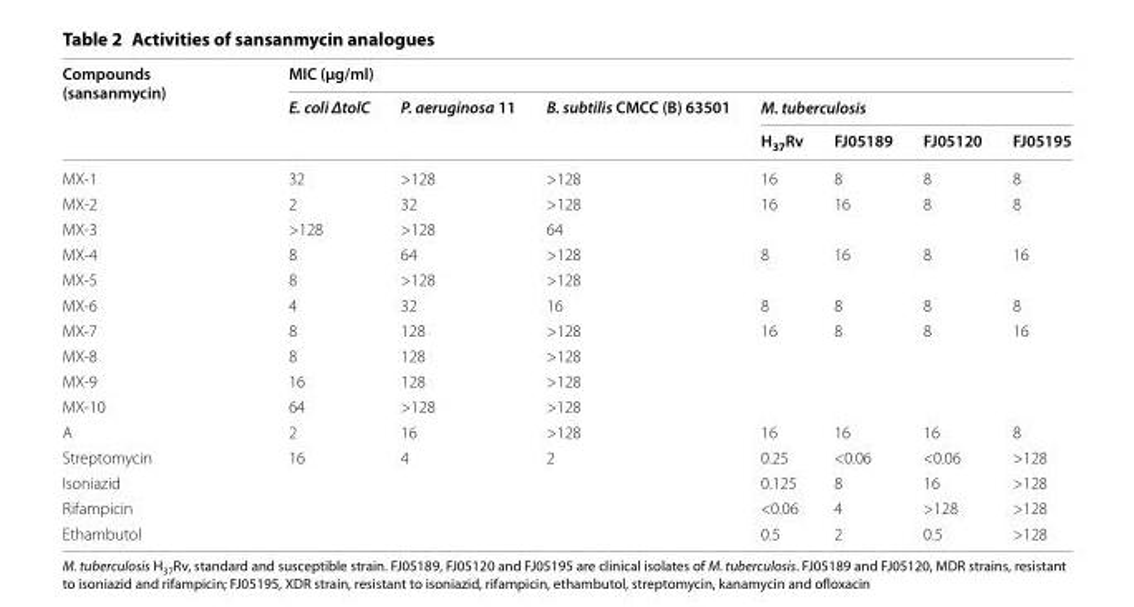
<table><thead><tr><td rowspan="3">Compounds (sansanmycin)</td><td colspan="7">MIC (μg/ml)</td></tr><tr><td rowspan="2">E. coli ΔtolC</td><td rowspan="2">P. aeruginosa 11</td><td rowspan="2">B. subtilis CMCC (B) 63501</td><td colspan="4">M. tuberculosis</td></tr><tr><td>H<sub>37</sub>Rv</td><td>FJ05189</td><td>FJ05120</td><td>FJ05195</td></tr></thead><tbody><tr><td>MX-1</td><td>32</td><td>&gt;128</td><td>&gt;128</td><td>16</td><td>8</td><td>8</td><td>8</td></tr><tr><td>MX-2</td><td>2</td><td>32</td><td>&gt;128</td><td>16</td><td>16</td><td>8</td><td>8</td></tr><tr><td>MX-3</td><td>&gt;128</td><td>&gt;128</td><td>64</td><td></td><td></td><td></td><td></td></tr><tr><td>MX-4</td><td>8</td><td>64</td><td>&gt;128</td><td>8</td><td>16</td><td>8</td><td>16</td></tr><tr><td>MX-5</td><td>8</td><td>&gt;128</td><td>&gt;128</td><td></td><td></td><td></td><td></td></tr><tr><td>MX-6</td><td>4</td><td>32</td><td>16</td><td>8</td><td>8</td><td>8</td><td>8</td></tr><tr><td>MX-7</td><td>8</td><td>128</td><td>&gt;128</td><td>16</td><td>8</td><td>8</td><td>16</td></tr><tr><td>MX-8</td><td>8</td><td>128</td><td>&gt;128</td><td></td><td></td><td></td><td></td></tr><tr><td>MX-9</td><td>16</td><td>128</td><td>&gt;128</td><td></td><td></td><td></td><td></td></tr><tr><td>MX-10</td><td>64</td><td>&gt;128</td><td>&gt;128</td><td></td><td></td><td></td><td></td></tr><tr><td>A</td><td>2</td><td>16</td><td>&gt;128</td><td>16</td><td>16</td><td>16</td><td>8</td></tr><tr><td>Streptomycin</td><td>16</td><td>4</td><td>2</td><td>0.25</td><td>&lt;0.06</td><td>&lt;0.06</td><td>&gt;128</td></tr><tr><td>Isoniazid</td><td></td><td></td><td></td><td>0.125</td><td>8</td><td>16</td><td>&gt;128</td></tr><tr><td>Rifampicin</td><td></td><td></td><td></td><td>&lt;0.06</td><td>4</td><td>&gt;128</td><td>&gt;128</td></tr><tr><td>Ethambutol</td><td></td><td></td><td></td><td>0.5</td><td>2</td><td>0.5</td><td>&gt;128</td></tr></tbody></table>